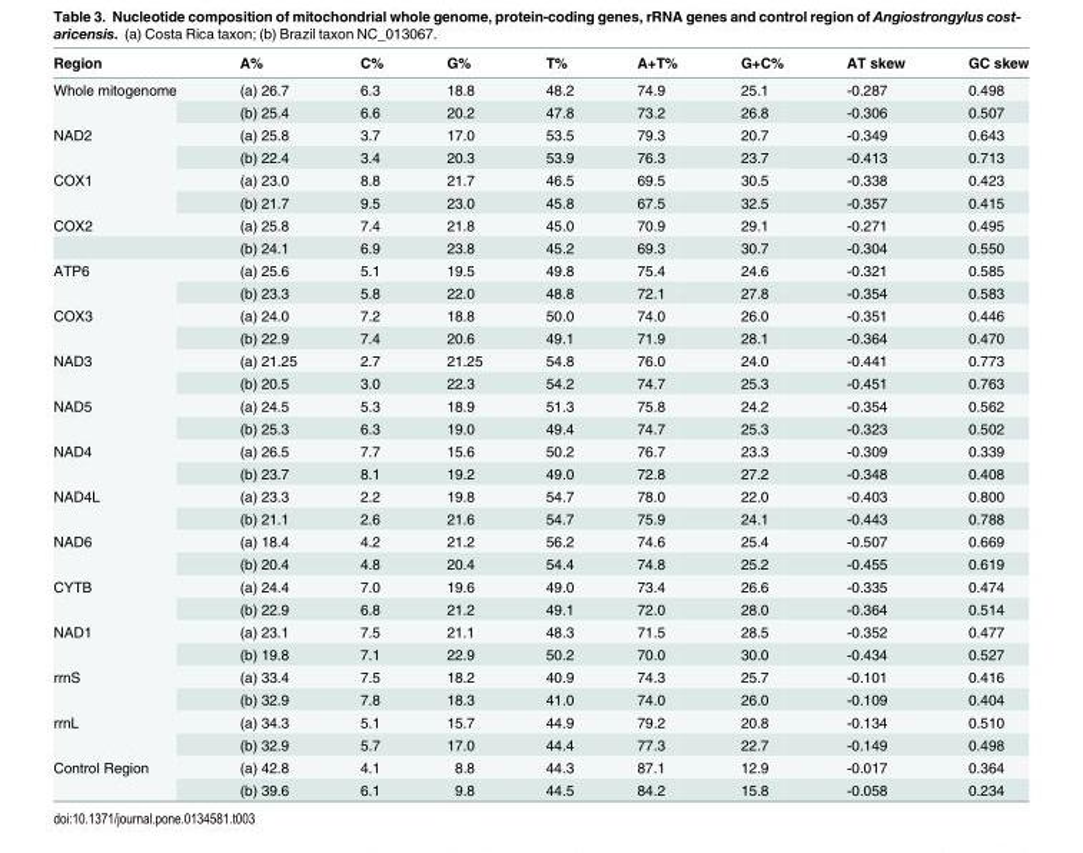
<table><thead><tr><td>Region</td><td>A%</td><td>C%</td><td>G%</td><td>T%</td><td>A+T%</td><td>G+C%</td><td>AT skew</td><td>GC skew</td></tr></thead><tbody><tr><td rowspan="2">Whole mitogenome</td><td>(a) 26.7</td><td>6.3</td><td>18.8</td><td>48.2</td><td>74.9</td><td>25.1</td><td>-0.287</td><td>0.498</td></tr><tr><td>(b) 25.4</td><td>6.6</td><td>20.2</td><td>47.8</td><td>73.2</td><td>26.8</td><td>-0.306</td><td>0.507</td></tr><tr><td rowspan="2">NAD2</td><td>(a) 25.8</td><td>3.7</td><td>17.0</td><td>53.5</td><td>79.3</td><td>20.7</td><td>-0.349</td><td>0.643</td></tr><tr><td>(b) 22.4</td><td>3.4</td><td>20.3</td><td>53.9</td><td>76.3</td><td>23.7</td><td>-0.413</td><td>0.713</td></tr><tr><td rowspan="2">COX1</td><td>(a) 23.0</td><td>8.8</td><td>21.7</td><td>46.5</td><td>69.5</td><td>30.5</td><td>-0.338</td><td>0.423</td></tr><tr><td>(b) 21.7</td><td>9.5</td><td>23.0</td><td>45.8</td><td>67.5</td><td>32.5</td><td>-0.357</td><td>0.415</td></tr><tr><td rowspan="2">COX2</td><td>(a) 25.8</td><td>7.4</td><td>21.8</td><td>45.0</td><td>70.9</td><td>29.1</td><td>-0.271</td><td>0.495</td></tr><tr><td>(b) 24.1</td><td>6.9</td><td>23.8</td><td>45.2</td><td>69.3</td><td>30.7</td><td>-0.304</td><td>0.550</td></tr><tr><td rowspan="2">ATP6</td><td>(a) 25.6</td><td>5.1</td><td>19.5</td><td>49.8</td><td>75.4</td><td>24.6</td><td>-0.321</td><td>0.585</td></tr><tr><td>(b) 23.3</td><td>5.8</td><td>22.0</td><td>48.8</td><td>72.1</td><td>27.8</td><td>-0.354</td><td>0.583</td></tr><tr><td rowspan="2">COX3</td><td>(a) 24.0</td><td>7.2</td><td>18.8</td><td>50.0</td><td>74.0</td><td>26.0</td><td>-0.351</td><td>0.446</td></tr><tr><td>(b) 22.9</td><td>7.4</td><td>20.6</td><td>49.1</td><td>71.9</td><td>28.1</td><td>-0.364</td><td>0.470</td></tr><tr><td rowspan="2">NAD3</td><td>(a) 21.25</td><td>2.7</td><td>21.25</td><td>54.8</td><td>76.0</td><td>24.0</td><td>-0.441</td><td>0.773</td></tr><tr><td>(b) 20.5</td><td>3.0</td><td>22.3</td><td>54.2</td><td>74.7</td><td>25.3</td><td>-0.451</td><td>0.763</td></tr><tr><td rowspan="2">NAD5</td><td>(a) 24.5</td><td>5.3</td><td>18.9</td><td>51.3</td><td>75.8</td><td>24.2</td><td>-0.354</td><td>0.562</td></tr><tr><td>(b) 25.3</td><td>6.3</td><td>19.0</td><td>49.4</td><td>74.7</td><td>25.3</td><td>-0.323</td><td>0.502</td></tr><tr><td rowspan="2">NAD4</td><td>(a) 26.5</td><td>7.7</td><td>15.6</td><td>50.2</td><td>76.7</td><td>23.3</td><td>-0.309</td><td>0.339</td></tr><tr><td>(b) 23.7</td><td>8.1</td><td>19.2</td><td>49.0</td><td>72.8</td><td>27.2</td><td>-0.348</td><td>0.408</td></tr><tr><td rowspan="2">NAD4L</td><td>(a) 23.3</td><td>2.2</td><td>19.8</td><td>54.7</td><td>78.0</td><td>22.0</td><td>-0.403</td><td>0.800</td></tr><tr><td>(b) 21.1</td><td>2.6</td><td>21.6</td><td>54.7</td><td>75.9</td><td>24.1</td><td>-0.443</td><td>0.788</td></tr><tr><td rowspan="2">NAD6</td><td>(a) 18.4</td><td>4.2</td><td>21.2</td><td>56.2</td><td>74.6</td><td>25.4</td><td>-0.507</td><td>0.669</td></tr><tr><td>(b) 20.4</td><td>4.8</td><td>20.4</td><td>54.4</td><td>74.8</td><td>25.2</td><td>-0.455</td><td>0.619</td></tr><tr><td rowspan="2">CYTB</td><td>(a) 24.4</td><td>7.0</td><td>19.6</td><td>49.0</td><td>73.4</td><td>26.6</td><td>-0.335</td><td>0.474</td></tr><tr><td>(b) 22.9</td><td>6.8</td><td>21.2</td><td>49.1</td><td>72.0</td><td>28.0</td><td>-0.364</td><td>0.514</td></tr><tr><td rowspan="2">NAD1</td><td>(a) 23.1</td><td>7.5</td><td>21.1</td><td>48.3</td><td>71.5</td><td>28.5</td><td>-0.352</td><td>0.477</td></tr><tr><td>(b) 19.8</td><td>7.1</td><td>22.9</td><td>50.2</td><td>70.0</td><td>30.0</td><td>-0.434</td><td>0.527</td></tr><tr><td rowspan="2">rrnS</td><td>(a) 33.4</td><td>7.5</td><td>18.2</td><td>40.9</td><td>74.3</td><td>25.7</td><td>-0.101</td><td>0.416</td></tr><tr><td>(b) 32.9</td><td>7.8</td><td>18.3</td><td>41.0</td><td>74.0</td><td>26.0</td><td>-0.109</td><td>0.404</td></tr><tr><td rowspan="2">rrnL</td><td>(a) 34.3</td><td>5.1</td><td>15.7</td><td>44.9</td><td>79.2</td><td>20.8</td><td>-0.134</td><td>0.510</td></tr><tr><td>(b) 32.9</td><td>5.7</td><td>17.0</td><td>44.4</td><td>77.3</td><td>22.7</td><td>-0.149</td><td>0.498</td></tr><tr><td rowspan="2">Control Region</td><td>(a) 42.8</td><td>4.1</td><td>8.8</td><td>44.3</td><td>87.1</td><td>12.9</td><td>-0.017</td><td>0.364</td></tr><tr><td>(b) 39.6</td><td>6.1</td><td>9.8</td><td>44.5</td><td>84.2</td><td>15.8</td><td>-0.058</td><td>0.234</td></tr></tbody></table>